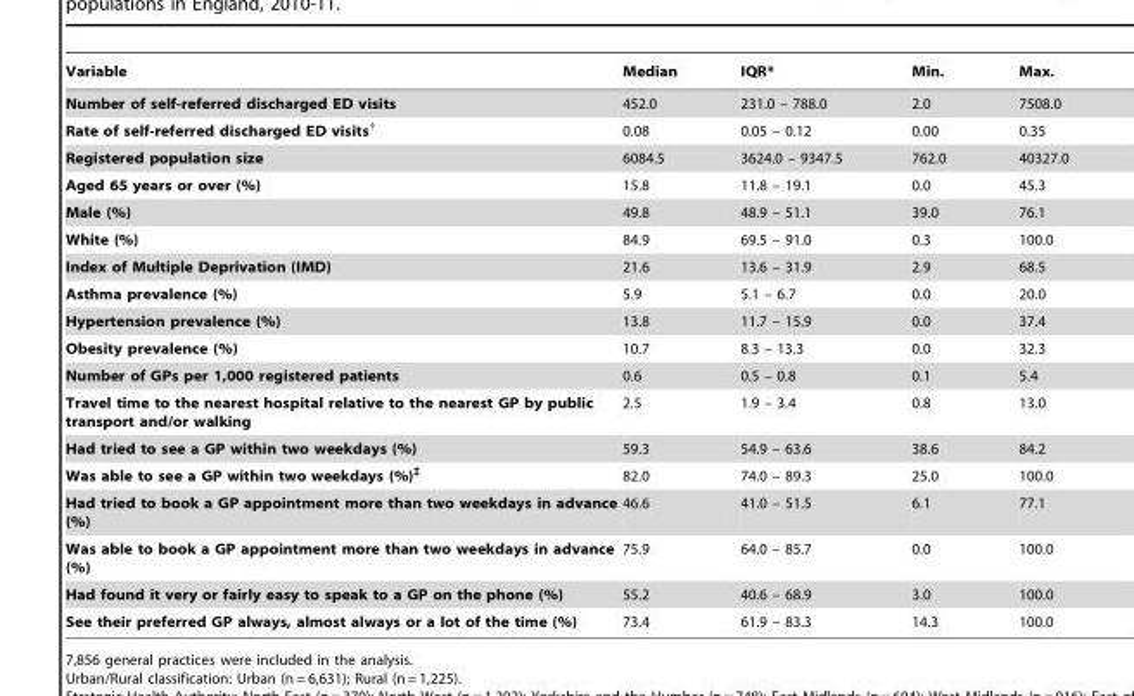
<table><thead><tr><td>Variable</td><td>Median</td><td>IQR*</td><td>Min.</td><td>Max.</td></tr></thead><tbody><tr><td>Number of self-referred discharged ED visits</td><td>452.0</td><td>231.0 – 788.0</td><td>2.0</td><td>7508.0</td></tr><tr><td>Rate of self-referred discharged ED visits†</td><td>0.08</td><td>0.05 – 0.12</td><td>0.00</td><td>0.35</td></tr><tr><td>Registered population size</td><td>6084.5</td><td>3624.0 – 9347.5</td><td>762.0</td><td>40327.0</td></tr><tr><td>Aged 65 years or over (%)</td><td>15.8</td><td>11.8 – 19.1</td><td>0.0</td><td>45.3</td></tr><tr><td>Male (%)</td><td>49.8</td><td>48.9 – 51.1</td><td>39.0</td><td>76.1</td></tr><tr><td>White (%)</td><td>84.9</td><td>69.5 – 91.0</td><td>0.3</td><td>100.0</td></tr><tr><td>Index of Multiple Deprivation (IMD)</td><td>21.6</td><td>13.6 – 31.9</td><td>2.9</td><td>68.5</td></tr><tr><td>Asthma prevalence (%)</td><td>5.9</td><td>5.1 – 6.7</td><td>0.0</td><td>20.0</td></tr><tr><td>Hypertension prevalence (%)</td><td>13.8</td><td>11.7 – 15.9</td><td>0.0</td><td>37.4</td></tr><tr><td>Obesity prevalence (%)</td><td>10.7</td><td>8.3 – 13.3</td><td>0.0</td><td>32.3</td></tr><tr><td>Number of GPs per 1,000 registered patients</td><td>0.6</td><td>0.5 – 0.8</td><td>0.1</td><td>5.4</td></tr><tr><td>Travel time to the nearest hospital relative to the nearest GP by public transport and/or walking</td><td>2.5</td><td>1.9 – 3.4</td><td>0.8</td><td>13.0</td></tr><tr><td>Had tried to see a GP within two weekdays (%)</td><td>59.3</td><td>54.9 – 63.6</td><td>38.6</td><td>84.2</td></tr><tr><td>Was able to see a GP within two weekdays (%)‡</td><td>82.0</td><td>74.0 – 89.3</td><td>25.0</td><td>100.0</td></tr><tr><td>Had tried to book a GP appointment more than two weekdays in advance (%)</td><td>46.6</td><td>41.0 – 51.5</td><td>6.1</td><td>77.1</td></tr><tr><td>Was able to book a GP appointment more than two weekdays in advance (%)</td><td>75.9</td><td>64.0 – 85.7</td><td>0.0</td><td>100.0</td></tr><tr><td>Had found it very or fairly easy to speak to a GP on the phone (%)</td><td>55.2</td><td>40.6 – 68.9</td><td>3.0</td><td>100.0</td></tr><tr><td>See their preferred GP always, almost always or a lot of the time (%)</td><td>73.4</td><td>61.9 – 83.3</td><td>14.3</td><td>100.0</td></tr></tbody></table>